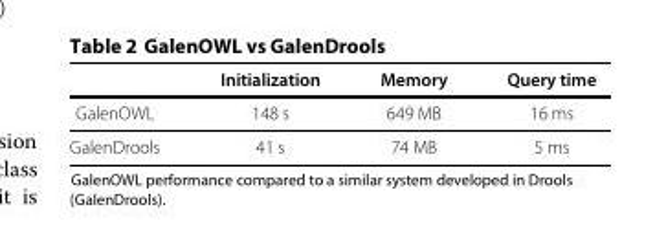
<table><thead><tr><td></td><td>Initialization</td><td>Memory</td><td>Query time</td></tr></thead><tbody><tr><td>GalenOWL</td><td>148 s</td><td>649 MB</td><td>16 ms</td></tr><tr><td>GalenDrools</td><td>41 s</td><td>74 MB</td><td>5 ms</td></tr></tbody></table>